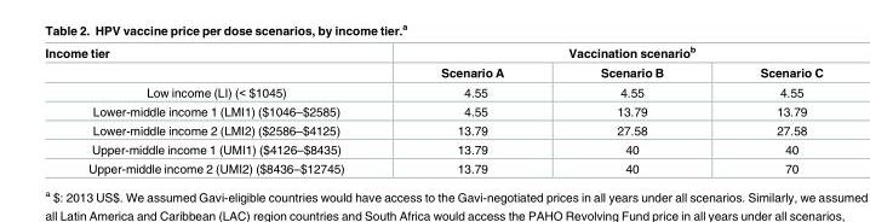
<table><thead><tr><td rowspan="2">Income tier</td><td colspan="3">Vaccination scenario<sup>b</sup></td></tr><tr><td>Scenario A</td><td>Scenario B</td><td>Scenario C</td></tr></thead><tbody><tr><td>Low income (LI) (&lt; $1045)</td><td>4.55</td><td>4.55</td><td>4.55</td></tr><tr><td>Lower-middle income 1 (LMI1) ($1046–$2585)</td><td>4.55</td><td>13.79</td><td>13.79</td></tr><tr><td>Lower-middle income 2 (LMI2) ($2586–$4125)</td><td>13.79</td><td>27.58</td><td>27.58</td></tr><tr><td>Upper-middle income 1 (UMI1) ($4126–$8435)</td><td>13.79</td><td>40</td><td>40</td></tr><tr><td>Upper-middle income 2 (UMI2) ($8436–$12745)</td><td>13.79</td><td>40</td><td>70</td></tr></tbody></table>